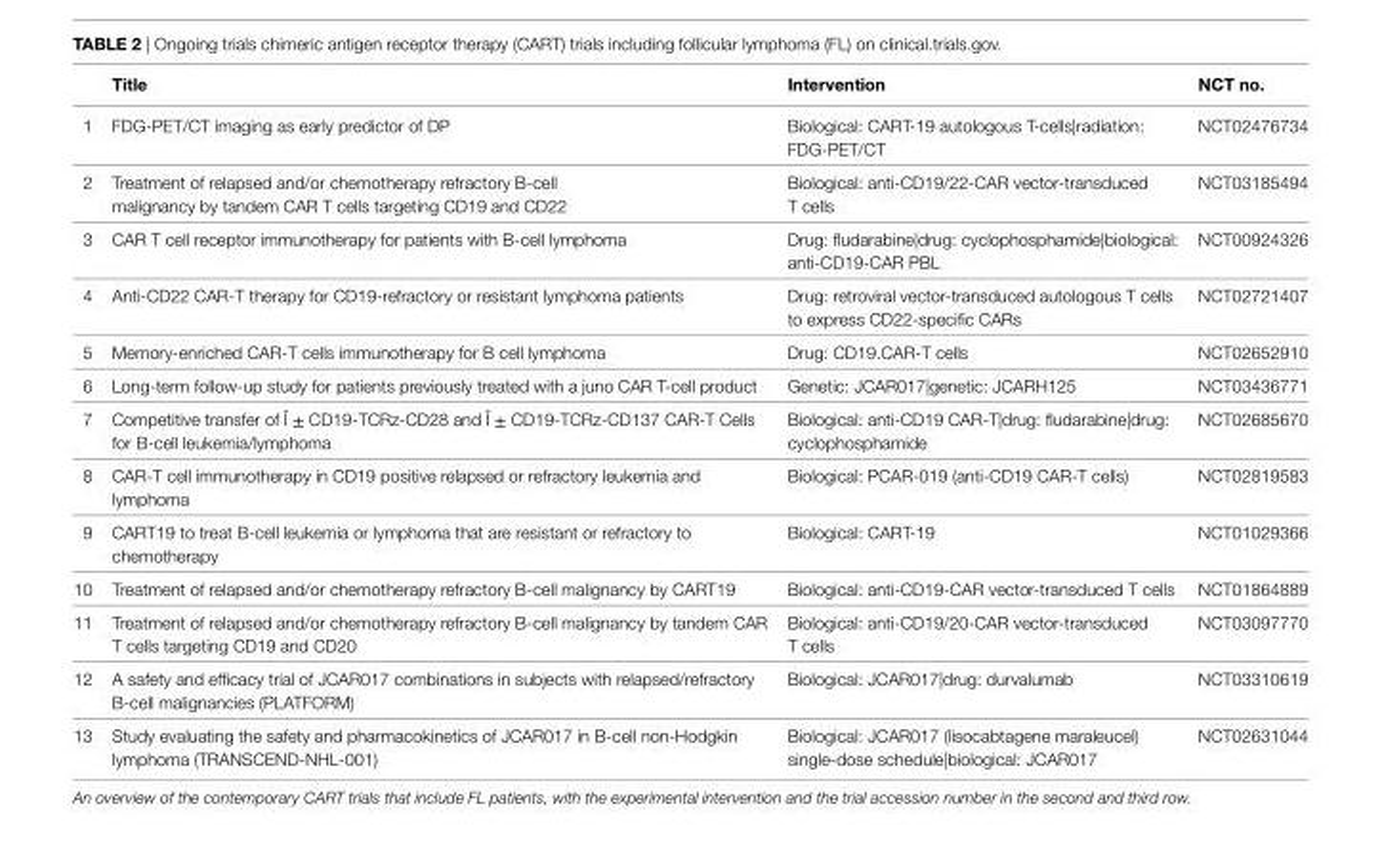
<table><thead><tr><td></td><td>Title</td><td>intervention</td><td>NCT no.</td></tr></thead><tbody><tr><td>1</td><td>FDG-PET/CT imaging as early predictor of DP</td><td>Biological: CART-19 autologous T-cells|radiation: FDG-PET/CT</td><td>NCT02476734</td></tr><tr><td>2</td><td>Treatment of relapsed and/or chemotherapy refractory B-cell malignancy by tandem CAR T cells targeting CD19 and CD22</td><td>Biological: anti-CD19/22-CAR vector-transduced T cells</td><td>NCT03185494</td></tr><tr><td>3</td><td>CAR T cell receptor immunotherapy for patients with B-cell lymphoma</td><td>Drug: fludarabine|drug: cyclophosphamide|biological: anti-CD19-CAR PBL</td><td>NCT00924326</td></tr><tr><td>4</td><td>Anti-CD22 CAR-T therapy for CD19-refractory or resistant lymphoma patients</td><td>Drug: retroviral vector-transduced autologous T cells to express CD22-specific CARs</td><td>NCT02721407</td></tr><tr><td>5</td><td>Memory-enriched CAR-T cells immunotherapy for B cell lymphoma</td><td>Drug: CD19.CAR-T cells</td><td>NCT02652910</td></tr><tr><td>6</td><td>Long-term follow-up study for patients previously treated with a juno CAR T-cell product</td><td>Genetic: JCAR017|genetic: JCARH125</td><td>NCT03436771</td></tr><tr><td>7</td><td>Competitive transfer of Î ± CD19-TCRz-CD28 and Î ± CD19-TCRz-CD137 CAR-T Cells for B-cell leukemia/lymphoma</td><td>Biological: anti-CD19 CAR-T|drug: fludarabine|drug: cyclophosphamide</td><td>NCT02685670</td></tr><tr><td>8</td><td>CAR-T cell immunotherapy in CD19 positive relapsed or refractory leukemia and lymphoma</td><td>Biological: PCAR-019 (anti-CD19 CAR-T cells)</td><td>NCT02819583</td></tr><tr><td>9</td><td>CART19 to treat B-cell leukemia or lymphoma that are resistant or refractory to chemotherapy</td><td>Biological: CART-19</td><td>NCT01029366</td></tr><tr><td>10</td><td>Treatment of relapsed and/or chemotherapy refractory B-cell malignancy by CART19</td><td>Biological: anti-CD19-CAR vector-transduced T cells</td><td>NCT01864889</td></tr><tr><td>11</td><td>Treatment of relapsed and/or chemotherapy refractory B-cell malignancy by tandem CAR T cells targeting CD19 and CD20</td><td>Biological: anti-CD19/20-CAR vector-transduced T cells</td><td>NCT03097770</td></tr><tr><td>12</td><td>A safety and efficacy trial of JCAR017 combinations in subjects with relapsed/refractory B-cell malignancies (PLATFORM)</td><td>Biological: JCAR017|drug: durvalumab</td><td>NCT03310619</td></tr><tr><td>13</td><td>Study evaluating the safety and pharmacokinetics of JCAR017 in B-cell non-Hodgkin lymphoma (TRANSCEND-NHL-001)</td><td>Biological: JCAR017 (lisocabtagene maraleucel) single-dose schedule|biological: JCAR017</td><td>NCT02631044</td></tr></tbody></table>